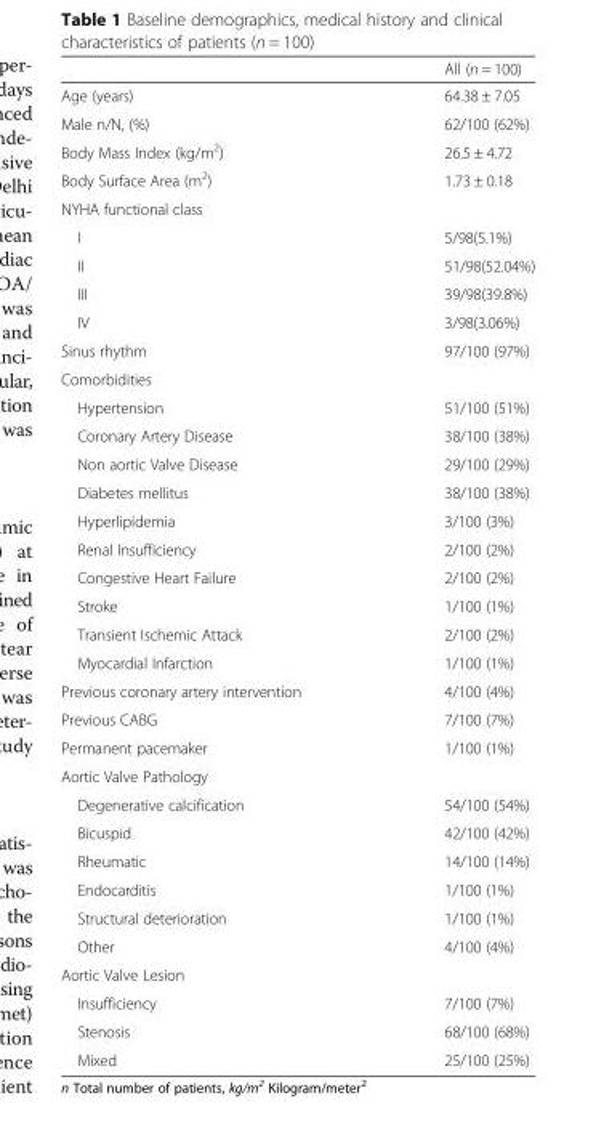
<table><thead><tr><td></td><td>All (n = 100)</td></tr></thead><tbody><tr><td>Age (years)</td><td>64.38 ± 7.05</td></tr><tr><td>Male n/N, (%)</td><td>62/100 (62%)</td></tr><tr><td>Body Mass Index (kg/m<sup>2</sup>)</td><td>26.5 ± 4.72</td></tr><tr><td>Body Surface Area (m<sup>2</sup>)</td><td>1.73 ± 0.18</td></tr><tr><td colspan="2">NYHA functional class</td></tr><tr><td>I</td><td>5/98(5.1%)</td></tr><tr><td>II</td><td>51/98(52.04%)</td></tr><tr><td>III</td><td>39/98(39.8%)</td></tr><tr><td>IV</td><td>3/98(3.06%)</td></tr><tr><td>Sinus rhythm</td><td>97/100 (97%)</td></tr><tr><td colspan="2">Comorbidities</td></tr><tr><td>Hypertension</td><td>51/100 (51%)</td></tr><tr><td>Coronary Artery Disease</td><td>38/100 (38%)</td></tr><tr><td>Non aortic Valve Disease</td><td>29/100 (29%)</td></tr><tr><td>Diabetes mellitus</td><td>38/100 (38%)</td></tr><tr><td>Hyperlipidemia</td><td>3/100 (3%)</td></tr><tr><td>Renal Insufficiency</td><td>2/100 (2%)</td></tr><tr><td>Congestive Heart Failure</td><td>2/100 (2%)</td></tr><tr><td>Stroke</td><td>1/100 (1%)</td></tr><tr><td>Transient Ischemic Attack</td><td>2/100 (2%)</td></tr><tr><td>Myocardial Infarction</td><td>1/100 (1%)</td></tr><tr><td>Previous coronary artery intervention</td><td>4/100 (4%)</td></tr><tr><td>Previous CABG</td><td>7/100 (7%)</td></tr><tr><td>Permanent pacemaker</td><td>1/100 (1%)</td></tr><tr><td colspan="2">Aortic Valve Pathology</td></tr><tr><td>Degenerative calcification</td><td>54/100 (54%)</td></tr><tr><td>Bicuspid</td><td>42/100 (42%)</td></tr><tr><td>Rheumatic</td><td>14/100 (14%)</td></tr><tr><td>Endocarditis</td><td>1/100 (1%)</td></tr><tr><td>Structural deterioration</td><td>1/100 (1%)</td></tr><tr><td>Other</td><td>4/100 (4%)</td></tr><tr><td colspan="2">Aortic Valve Lesion</td></tr><tr><td>Insufficiency</td><td>7/100 (7%)</td></tr><tr><td>Stenosis</td><td>68/100 (68%)</td></tr><tr><td>Mixed</td><td>25/100 (25%)</td></tr></tbody></table>